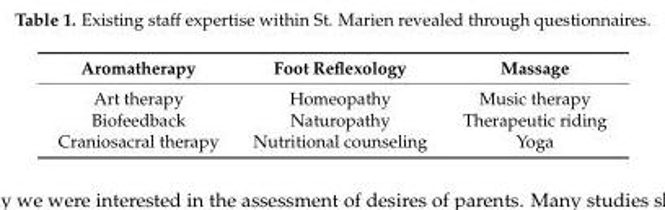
<table><thead><tr><td>Aromatherapy</td><td>Foot Reflexology</td><td>Massage</td></tr></thead><tbody><tr><td>Art therapy</td><td>Homeopathy</td><td>Music therapy</td></tr><tr><td>Biofeedback</td><td>Naturopathy</td><td>Therapeutic riding</td></tr><tr><td>Craniosacral therapy</td><td>Nutritional counseling</td><td>Yoga</td></tr></tbody></table>